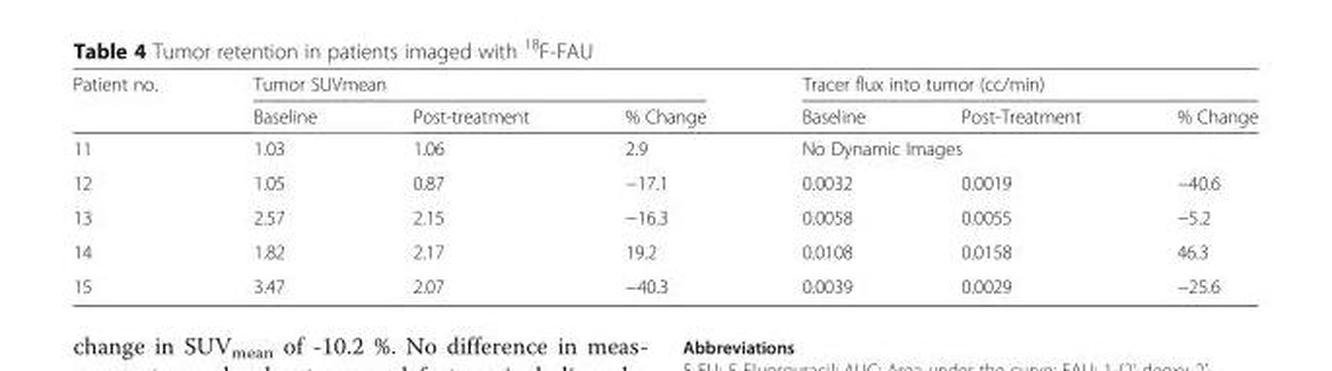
<table><thead><tr><td rowspan="2">Patient no.</td><td colspan="3">Tumor SUVmean</td><td colspan="3">Tracer flux into tumor (cc/min)</td></tr><tr><td>Baseline</td><td>Post-treatment</td><td>% Change</td><td>Baseline</td><td>Post-Treatment</td><td>% Change</td></tr></thead><tbody><tr><td>11</td><td>1.03</td><td>1.06</td><td>2.9</td><td colspan="3">No Dynamic Images</td></tr><tr><td>12</td><td>1.05</td><td>0.87</td><td>−17.1</td><td>0.0032</td><td>0.0019</td><td>−40.6</td></tr><tr><td>13</td><td>2.57</td><td>2.15</td><td>−16.3</td><td>0.0058</td><td>0.0055</td><td>−5.2</td></tr><tr><td>14</td><td>1.82</td><td>2.17</td><td>19.2</td><td>0.0108</td><td>0.0158</td><td>46.3</td></tr><tr><td>15</td><td>3.47</td><td>2.07</td><td>−40.3</td><td>0.0039</td><td>0.0029</td><td>−25.6</td></tr></tbody></table>